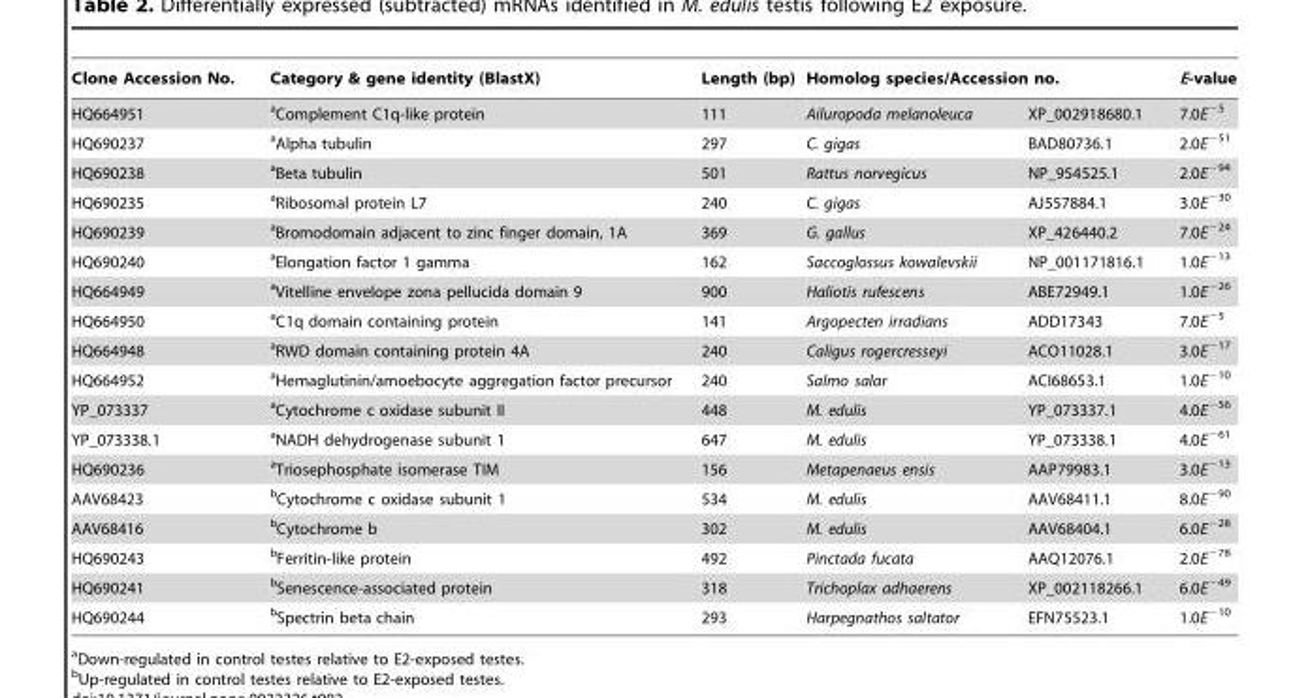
<table><thead><tr><td rowspan="2">Clone Accession No. HQ664951</td><td rowspan="2">Category &amp; gene identity (BlastX) aComplement C1q-like protein</td><td rowspan="2">Length (bp) 111</td><td colspan="2">Homolog species/Accession no.</td><td rowspan="2">E-value 7.0E<sup>−5</sup></td></tr><tr><td>Ailuropoda melanoleuca</td><td>XP_002918680.1</td></tr></thead><tbody><tr><td>HQ690237</td><td>aAlpha tubulin</td><td>297</td><td>C. gigas</td><td>BAD80736.1</td><td>2.0E<sup>−51</sup></td></tr><tr><td>HQ690238</td><td>aBeta tubulin</td><td>501</td><td>Rattus norvegicus</td><td>NP_954525.1</td><td>2.0E<sup>−94</sup></td></tr><tr><td>HQ690235</td><td>aRibosomal protein L7</td><td>240</td><td>C. gigas</td><td>AJ557884.1</td><td>3.0E<sup>−30</sup></td></tr><tr><td>HQ690239</td><td>aBromodomain adjacent to zinc finger domain, 1A</td><td>369</td><td>G. gallus</td><td>XP_426440.2</td><td>7.0E<sup>−24</sup></td></tr><tr><td>HQ690240</td><td>aElongation factor 1 gamma</td><td>162</td><td>Saccoglossus kowalevskii</td><td>NP_001171816.1</td><td>1.0E<sup>−13</sup></td></tr><tr><td>HQ664949</td><td>aVitelline envelope zona pellucida domain 9</td><td>900</td><td>Haliotis rufescens</td><td>ABE72949.1</td><td>1.0E<sup>−26</sup></td></tr><tr><td>HQ664950</td><td>aC1q domain containing protein</td><td>141</td><td>Argopecten irradians</td><td>ADD17343</td><td>7.0E<sup>−5</sup></td></tr><tr><td>HQ664948</td><td>aRWD domain containing protein 4A</td><td>240</td><td>Caligus rogercresseyi</td><td>ACO11028.1</td><td>3.0E<sup>−17</sup></td></tr><tr><td>HQ664952</td><td>aHemaglutinin/amoebocyte aggregation factor precursor</td><td>240</td><td>Salmo salar</td><td>ACI68653.1</td><td>1.0E<sup>−10</sup></td></tr><tr><td>YP_073337</td><td>aCytochrome c oxidase subunit II</td><td>448</td><td>M. edulis</td><td>YP_073337.1</td><td>4.0E<sup>−56</sup></td></tr><tr><td>YP_073338.1</td><td>aNADH dehydrogenase subunit 1</td><td>647</td><td>M. edulis</td><td>YP_073338.1</td><td>4.0E<sup>−61</sup></td></tr><tr><td>HQ690236</td><td>aTriosephosphate isomerase TIM</td><td>156</td><td>Metapenaeus ensis</td><td>AAP79983.1</td><td>3.0E<sup>−13</sup></td></tr><tr><td>AAV68423</td><td>bCytochrome c oxidase subunit 1</td><td>534</td><td>M. edulis</td><td>AAV68411.1</td><td>8.0E<sup>−90</sup></td></tr><tr><td>AAV68416</td><td>bCytochrome b</td><td>302</td><td>M. edulis</td><td>AAV68404.1</td><td>6.0E<sup>−28</sup></td></tr><tr><td>HQ690243</td><td>bFerritin-like protein</td><td>492</td><td>Pinctada fucata</td><td>AAQ12076.1</td><td>2.0E<sup>−78</sup></td></tr><tr><td>HQ690241</td><td>bSenescence-associated protein</td><td>318</td><td>Trichoplax adhaerens</td><td>XP_002118266.1</td><td>6.0E<sup>−49</sup></td></tr><tr><td>HQ690244</td><td>bSpectrin beta chain</td><td>293</td><td>Harpegnathos saltator</td><td>EFN75523.1</td><td>1.0E<sup>−10</sup></td></tr></tbody></table>